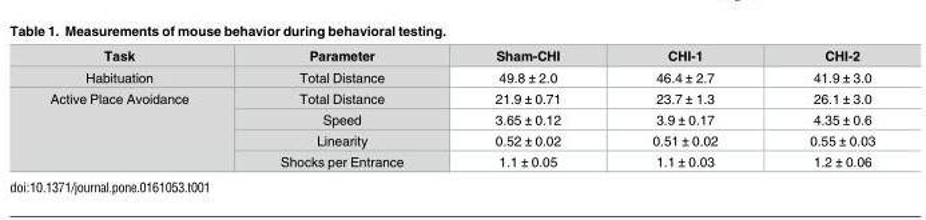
<table><thead><tr><td>Task</td><td>Parameter</td><td>Sham-CHI</td><td>CHI-1</td><td>CHI-2</td></tr></thead><tbody><tr><td>Habituation</td><td>Total Distance</td><td>49.8 ± 2.0</td><td>46.4 ± 2.7</td><td>41.9 ± 3.0</td></tr><tr><td rowspan="4">Active Place Avoidance</td><td>Total Distance</td><td>21.9 ± 0.71</td><td>23.7 ± 1.3</td><td>26.1 ± 3.0</td></tr><tr><td>Speed</td><td>3.65 ± 0.12</td><td>3.9 ± 0.17</td><td>4.35 ± 0.6</td></tr><tr><td>Linearity</td><td>0.52 ± 0.02</td><td>0.51 ± 0.02</td><td>0.55 ± 0.03</td></tr><tr><td>Shocks per Entrance</td><td>1.1 ± 0.05</td><td>1.1 ± 0.03</td><td>1.2 ± 0.06</td></tr></tbody></table>